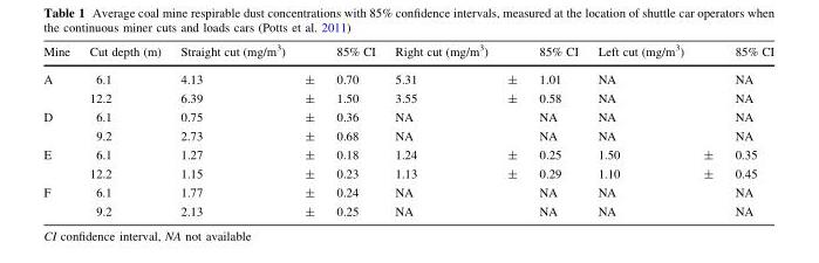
<table><thead><tr><td>Mine</td><td>Cut depth (m)</td><td>Straight cut (mg/m<sup>3</sup>)</td><td></td><td>85% CI</td><td>Right cut (mg/m<sup>3</sup>)</td><td></td><td>85% CI</td><td>Left cut (mg/m<sup>3</sup>)</td><td></td><td>85% CI</td></tr></thead><tbody><tr><td rowspan="2">A</td><td>6.1</td><td>4.13</td><td>±</td><td>0.70</td><td>5.31</td><td>±</td><td>1.01</td><td>NA</td><td></td><td>NA</td></tr><tr><td>12.2</td><td>6.39</td><td>±</td><td>1.50</td><td>3.55</td><td>±</td><td>0.58</td><td>NA</td><td></td><td>NA</td></tr><tr><td rowspan="2">D</td><td>6.1</td><td>0.75</td><td>±</td><td>0.36</td><td>NA</td><td></td><td>NA</td><td>NA</td><td></td><td>NA</td></tr><tr><td>9.2</td><td>2.73</td><td>±</td><td>0.68</td><td>NA</td><td></td><td>NA</td><td>NA</td><td></td><td>NA</td></tr><tr><td rowspan="2">E</td><td>6.1</td><td>1.27</td><td>±</td><td>0.18</td><td>1.24</td><td>±</td><td>0.25</td><td>1.50</td><td>±</td><td>0.35</td></tr><tr><td>12.2</td><td>1.15</td><td>±</td><td>0.23</td><td>1.13</td><td>±</td><td>0.29</td><td>1.10</td><td>±</td><td>0.45</td></tr><tr><td rowspan="2">F</td><td>6.1</td><td>1.77</td><td>±</td><td>0.24</td><td>NA</td><td></td><td>NA</td><td>NA</td><td></td><td>NA</td></tr><tr><td>9.2</td><td>2.13</td><td>±</td><td>0.25</td><td>NA</td><td></td><td>NA</td><td>NA</td><td></td><td>NA</td></tr></tbody></table>